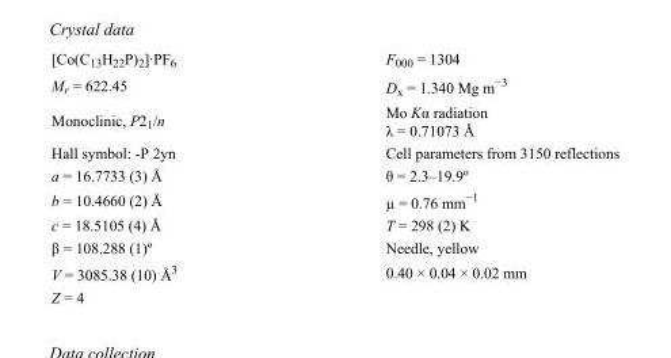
<table><tbody><tr><td>[Co(C<sub>13</sub>H<sub>22</sub>P)<sub>2</sub>]·PF<sub>6</sub></td><td>F<sub>000</sub> = 1304</td></tr><tr><td>M<sub>r</sub> = 622.45</td><td>D<sub>x</sub> = 1.340 Mg m<sup>−3</sup></td></tr><tr><td>Monoclinic, P2<sub>1</sub>/n</td><td>Mo Kα radiation λ = 0.71073 Å</td></tr><tr><td>Hall symbol: -P 2yn</td><td>Cell parameters from 3150 reflections</td></tr><tr><td>a = 16.7733 (3) Å</td><td>θ = 2.3–19.9º</td></tr><tr><td>b = 10.4660 (2) Å</td><td>µ = 0.76 mm<sup>−1</sup></td></tr><tr><td>c = 18.5105 (4) Å</td><td>T = 298 (2) K</td></tr><tr><td>β = 108.288 (1)º</td><td>Needle, yellow</td></tr><tr><td>V = 3085.38 (10) Å<sup>3</sup></td><td>0.40 × 0.04 × 0.02 mm</td></tr><tr><td>Z = 4</td><td></td></tr></tbody></table>